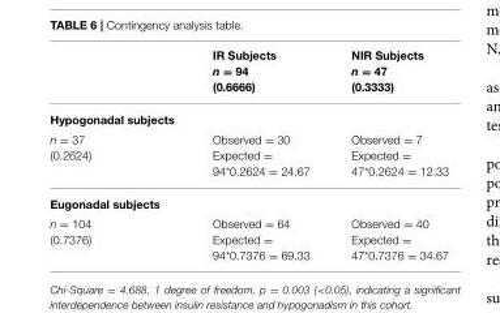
<table><thead><tr><td></td><td>IR Subjects n = 94 (0.6666)</td><td>NIR Subjects n = 47 (0.3333)</td></tr></thead><tbody><tr><td colspan="3">Hypogonadal subjects</td></tr><tr><td>n = 37 (0.2624)</td><td>Observed = 30 Expected = 94*0.2624 = 24.67</td><td>Observed = 7 Expected = 47*0.2624 = 12.33</td></tr><tr><td colspan="3">Eugonadal subjects</td></tr><tr><td>n = 104 (0.7376)</td><td>Observed = 64 Expected = 94*0.7376 = 69.33</td><td>Observed = 40 Expected = 47*0.7376 = 34.67</td></tr></tbody></table>